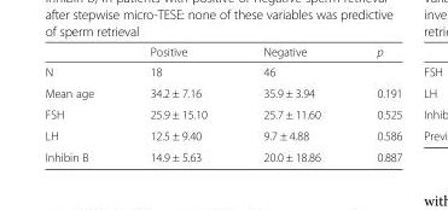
<table><thead><tr><td></td><td>Positive</td><td>Negative</td><td>p</td></tr></thead><tbody><tr><td>N</td><td>18</td><td>46</td><td></td></tr><tr><td>Mean age</td><td>34.2 ± 7.16</td><td>35.9 ± 3.94</td><td>0.191</td></tr><tr><td>FSH</td><td>25.9 ± 15.10</td><td>25.7 ± 11.60</td><td>0.525</td></tr><tr><td>LH</td><td>12.5 ± 9.40</td><td>9.7 ± 4.88</td><td>0.586</td></tr><tr><td>Inhibin B</td><td>14.9 ± 5.63</td><td>20.0 ± 18.86</td><td>0.887</td></tr></tbody></table>